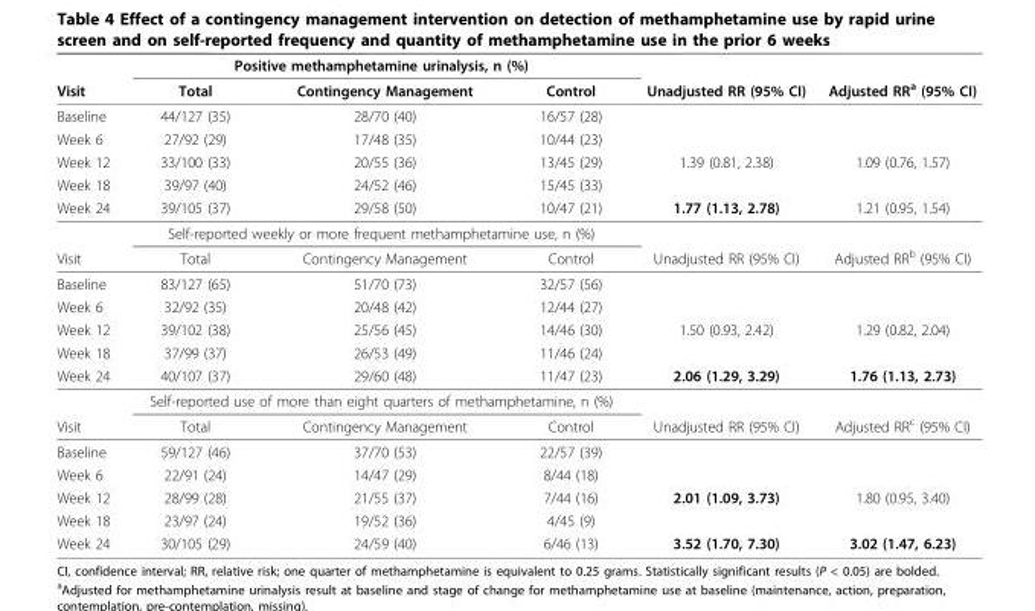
<table><thead><tr><td rowspan="2">Visit</td><td colspan="3">Positive methamphetamine urinalysis, n (%)</td><td rowspan="2">Unadjusted RR (95% CI)</td><td rowspan="2">Adjusted RR<sup>a</sup> (95% CI)</td></tr><tr><td>Total</td><td>Contingency Management</td><td>Control</td></tr></thead><tbody><tr><td>Baseline</td><td>44/127 (35)</td><td>28/70 (40)</td><td>16/57 (28)</td><td></td><td></td></tr><tr><td>Week 6</td><td>27/92 (29)</td><td>17/48 (35)</td><td>10/44 (23)</td><td></td><td></td></tr><tr><td>Week 12</td><td>33/100 (33)</td><td>20/55 (36)</td><td>13/45 (29)</td><td>1.39 (0.81, 2.38)</td><td>1.09 (0.76, 1.57)</td></tr><tr><td>Week 18</td><td>39/97 (40)</td><td>24/52 (46)</td><td>15/45 (33)</td><td></td><td></td></tr><tr><td rowspan="2">Week 24</td><td>39/105 (37)</td><td>29/58 (50)</td><td>10/47 (21)</td><td>1.77 (1.13, 2.78)</td><td>1.21 (0.95, 1.54)</td></tr><tr><td colspan="3">Self-reported weekly or more frequent methamphetamine use, n (%)</td><td></td><td></td></tr><tr><td>Visit</td><td>Total</td><td>Contingency Management</td><td>Control</td><td>Unadjusted RR (95% CI)</td><td>Adjusted RR<sup>b</sup> (95% CI)</td></tr><tr><td>Baseline</td><td>83/127 (65)</td><td>51/70 (73)</td><td>32/57 (56)</td><td></td><td></td></tr><tr><td>Week 6</td><td>32/92 (35)</td><td>20/48 (42)</td><td>12/44 (27)</td><td></td><td></td></tr><tr><td>Week 12</td><td>39/102 (38)</td><td>25/56 (45)</td><td>14/46 (30)</td><td>1.50 (0.93, 2.42)</td><td>1.29 (0.82, 2.04)</td></tr><tr><td>Week 18</td><td>37/99 (37)</td><td>26/53 (49)</td><td>11/46 (24)</td><td></td><td></td></tr><tr><td rowspan="2">Week 24</td><td>40/107 (37)</td><td>29/60 (48)</td><td>11/47 (23)</td><td>2.06 (1.29, 3.29)</td><td>1.76 (1.13, 2.73)</td></tr><tr><td colspan="3">Self-reported use of more than eight quarters of methamphetamine, n (%)</td><td></td><td></td></tr><tr><td>Visit</td><td>Total</td><td>Contingency Management</td><td>Control</td><td>Unadjusted RR (95% CI)</td><td>Adjusted RR<sup>c</sup> (95% CI)</td></tr><tr><td>Baseline</td><td>59/127 (46)</td><td>37/70 (53)</td><td>22/57 (39)</td><td></td><td></td></tr><tr><td>Week 6</td><td>22/91 (24)</td><td>14/47 (29)</td><td>8/44 (18)</td><td></td><td></td></tr><tr><td>Week 12</td><td>28/99 (28)</td><td>21/55 (37)</td><td>7/44 (16)</td><td>2.01 (1.09, 3.73)</td><td>1.80 (0.95, 3.40)</td></tr><tr><td>Week 18</td><td>23/97 (24)</td><td>19/52 (36)</td><td>4/45 (9)</td><td></td><td></td></tr><tr><td>Week 24</td><td>30/105 (29)</td><td>24/59 (40)</td><td>6/46 (13)</td><td>3.52 (1.70, 7.30)</td><td>3.02 (1.47, 6.23)</td></tr></tbody></table>